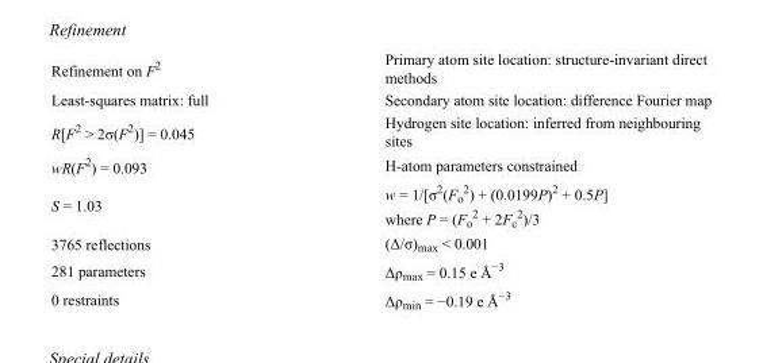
<table><tbody><tr><td>Refinement on F<sup>2</sup></td><td>Primary atom site location: structure-invariant direct methods</td></tr><tr><td>Least-squares matrix: full</td><td>Secondary atom site location: difference Fourier map</td></tr><tr><td>R[F<sup>2</sup> &gt; 2σ(F<sup>2</sup>)] = 0.045</td><td>Hydrogen site location: inferred from neighbouring sites</td></tr><tr><td>wR(F<sup>2</sup>) = 0.093</td><td>H-atom parameters constrained</td></tr><tr><td>S = 1.03</td><td>w = 1/[σ<sup>2</sup>(F<sub>o</sub> <sup>2</sup>) + (0.0199P)<sup>2</sup> + 0.5P] where P = (F<sub>o</sub> <sup>2</sup> + 2F<sub>c</sub> <sup>2</sup>)/3</td></tr><tr><td>3765 reflections</td><td>(Δ/σ)<sub>max</sub> &lt; 0.001</td></tr><tr><td>281 parameters</td><td>Δρ<sub>max</sub> = 0.15 e Å<sup>−3</sup></td></tr><tr><td>0 restraints</td><td>Δρ<sub>min</sub> = −0.19 e Å<sup>−3</sup></td></tr></tbody></table>